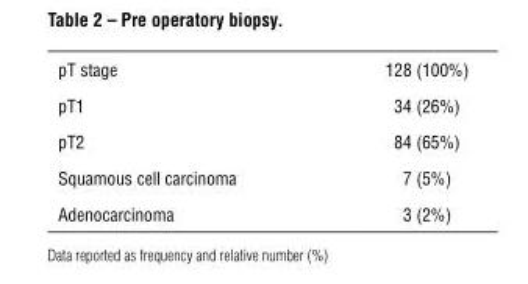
<table><thead><tr><td>pT stage</td><td>128 (100%)</td></tr></thead><tbody><tr><td>pT1</td><td>34 (26%)</td></tr><tr><td>pT2</td><td>84 (65%)</td></tr><tr><td>Squamous cell carcinoma</td><td>7 (5%)</td></tr><tr><td>Adenocarcinoma</td><td>3 (2%)</td></tr></tbody></table>